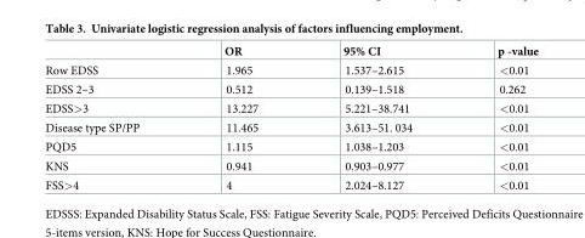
<table><thead><tr><td></td><td>OR</td><td>95% CI</td><td>p -value</td></tr></thead><tbody><tr><td>Row EDSS</td><td>1.965</td><td>1.537–2.615</td><td>&lt;0.01</td></tr><tr><td>EDSS 2–3</td><td>0.512</td><td>0.139–1.518</td><td>0.262</td></tr><tr><td>EDSS&gt;3</td><td>13.227</td><td>5.221–38.741</td><td>&lt;0.01</td></tr><tr><td>Disease type SP/PP</td><td>11.465</td><td>3.613–51. 034</td><td>&lt;0.01</td></tr><tr><td>PQD5</td><td>1.115</td><td>1.038–1.203</td><td>&lt;0.01</td></tr><tr><td>KNS</td><td>0.941</td><td>0.903–0.977</td><td>&lt;0.01</td></tr><tr><td>FSS&gt;4</td><td>4</td><td>2.024–8.127</td><td>&lt;0.01</td></tr></tbody></table>